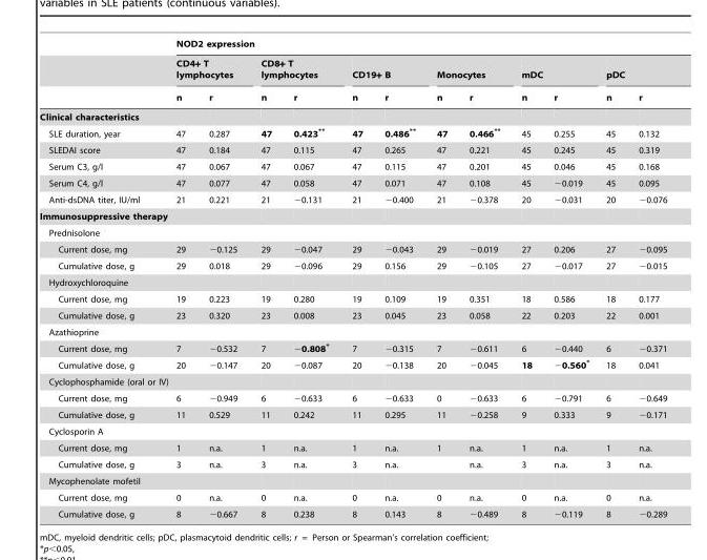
<table><thead><tr><td rowspan="3"></td><td colspan="12">NOD2 expression</td></tr><tr><td colspan="2">CD4+ T lymphocytes</td><td colspan="2">CD8+ T lymphocytes</td><td colspan="2">CD19+ B</td><td colspan="2">Monocytes</td><td colspan="2">mDC</td><td colspan="2">pDC</td></tr><tr><td>n</td><td>r</td><td>n</td><td>r</td><td>n</td><td>r</td><td>n</td><td>r</td><td>n</td><td>r</td><td>n</td><td>r</td></tr></thead><tbody><tr><td colspan="13">Clinical characteristics</td></tr><tr><td>SLE duration, year</td><td>47</td><td>0.287</td><td>47</td><td>0.423**</td><td>47</td><td>0.486**</td><td>47</td><td>0.466**</td><td>45</td><td>0.255</td><td>45</td><td>0.132</td></tr><tr><td>SLEDAI score</td><td>47</td><td>0.184</td><td>47</td><td>0.115</td><td>47</td><td>0.265</td><td>47</td><td>0.221</td><td>45</td><td>0.245</td><td>45</td><td>0.319</td></tr><tr><td>Serum C3, g/l</td><td>47</td><td>0.067</td><td>47</td><td>0.067</td><td>47</td><td>0.115</td><td>47</td><td>0.201</td><td>45</td><td>0.046</td><td>45</td><td>0.168</td></tr><tr><td>Serum C4, g/l</td><td>47</td><td>0.077</td><td>47</td><td>0.058</td><td>47</td><td>0.071</td><td>47</td><td>0.108</td><td>45</td><td>−0.019</td><td>45</td><td>0.095</td></tr><tr><td>Anti-dsDNA titer, IU/ml</td><td>21</td><td>0.221</td><td>21</td><td>−0.131</td><td>21</td><td>−0.400</td><td>21</td><td>−0.378</td><td>20</td><td>−0.031</td><td>20</td><td>−0.076</td></tr><tr><td colspan="13">Immunosuppressive therapy</td></tr><tr><td colspan="13">Prednisolone</td></tr><tr><td>Current dose, mg</td><td>29</td><td>−0.125</td><td>29</td><td>−0.047</td><td>29</td><td>−0.043</td><td>29</td><td>−0.019</td><td>27</td><td>0.206</td><td>27</td><td>−0.095</td></tr><tr><td>Cumulative dose, g</td><td>29</td><td>0.018</td><td>29</td><td>−0.096</td><td>29</td><td>0.156</td><td>29</td><td>−0.105</td><td>27</td><td>−0.017</td><td>27</td><td>−0.015</td></tr><tr><td colspan="13">Hydroxychloroquine</td></tr><tr><td>Current dose, mg</td><td>19</td><td>0.223</td><td>19</td><td>0.280</td><td>19</td><td>0.109</td><td>19</td><td>0.351</td><td>18</td><td>0.586</td><td>18</td><td>0.177</td></tr><tr><td>Cumulative dose, g</td><td>23</td><td>0.320</td><td>23</td><td>0.008</td><td>23</td><td>0.045</td><td>23</td><td>0.058</td><td>22</td><td>0.203</td><td>22</td><td>0.001</td></tr><tr><td colspan="13">Azathioprine</td></tr><tr><td>Current dose, mg</td><td>7</td><td>−0.532</td><td>7</td><td>−0.808*</td><td>7</td><td>−0.315</td><td>7</td><td>−0.611</td><td>6</td><td>−0.440</td><td>6</td><td>−0.371</td></tr><tr><td>Cumulative dose, g</td><td>20</td><td>−0.147</td><td>20</td><td>−0.087</td><td>20</td><td>−0.138</td><td>20</td><td>−0.045</td><td>18</td><td>−0.560*</td><td>18</td><td>0.041</td></tr><tr><td colspan="13">Cyclophosphamide (oral or IV)</td></tr><tr><td>Current dose, mg</td><td>6</td><td>−0.949</td><td>6</td><td>−0.633</td><td>6</td><td>−0.633</td><td>0</td><td>−0.633</td><td>6</td><td>−0.791</td><td>6</td><td>−0.649</td></tr><tr><td>Cumulative dose, g</td><td>11</td><td>0.529</td><td>11</td><td>0.242</td><td>11</td><td>0.295</td><td>11</td><td>−0.258</td><td>9</td><td>0.333</td><td>9</td><td>−0.171</td></tr><tr><td colspan="13">Cyclosporin A</td></tr><tr><td>Current dose, mg</td><td>1</td><td>n.a.</td><td>1</td><td>n.a.</td><td>1</td><td>n.a.</td><td>1</td><td>n.a.</td><td>1</td><td>n.a.</td><td>1</td><td>n.a.</td></tr><tr><td>Cumulative dose, g</td><td>3</td><td>n.a.</td><td>3</td><td>n.a.</td><td>3</td><td>n.a.</td><td></td><td>n.a.</td><td>3</td><td>n.a.</td><td>3</td><td>n.a.</td></tr><tr><td colspan="13">Mycophenolate mofetil</td></tr><tr><td>Current dose, mg</td><td>0</td><td>n.a.</td><td>0</td><td>n.a.</td><td>0</td><td>n.a.</td><td>0</td><td>n.a.</td><td>0</td><td>n.a.</td><td>0</td><td>n.a.</td></tr><tr><td>Cumulative dose, g</td><td>8</td><td>−0.667</td><td>8</td><td>0.238</td><td>8</td><td>0.143</td><td>8</td><td>−0.489</td><td>8</td><td>−0.119</td><td>8</td><td>−0.289</td></tr></tbody></table>